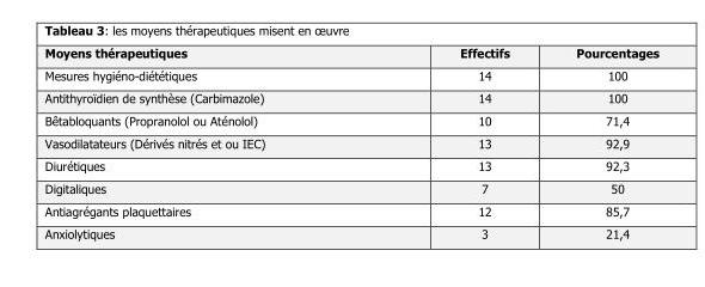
<table><thead><tr><td>Moyens thérapeutiques</td><td>Effectifs</td><td>Pourcentages</td></tr></thead><tbody><tr><td>Mesures hygiéno-diététiques</td><td>14</td><td>100</td></tr><tr><td>Antithyroïdien de synthèse (Carbimazole)</td><td>14</td><td>100</td></tr><tr><td>Bêtabloquants (Propranolol ou Aténolol)</td><td>10</td><td>71,4</td></tr><tr><td>Vasodilatateurs (Dérivés nitrés et ou IEC)</td><td>13</td><td>92,9</td></tr><tr><td>Diurétiques</td><td>13</td><td>92,3</td></tr><tr><td>Digitaliques</td><td>7</td><td>50</td></tr><tr><td>Antiagrégants plaquettaires</td><td>12</td><td>85,7</td></tr><tr><td>Anxiolytiques</td><td>3</td><td>21,4</td></tr></tbody></table>